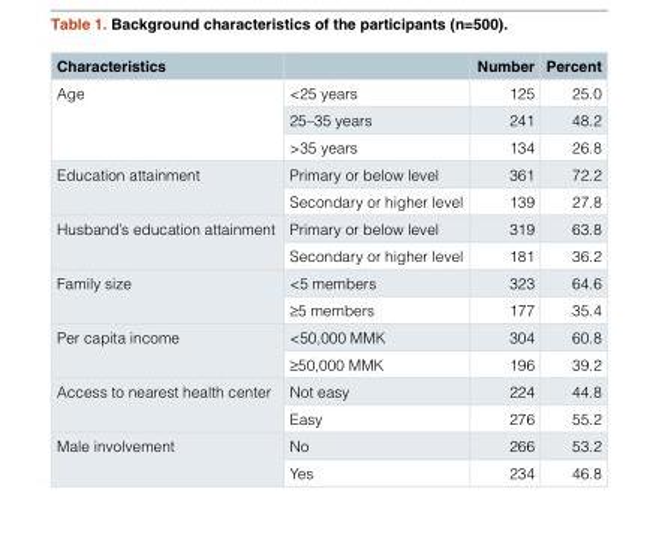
<table><thead><tr><td>Characteristics</td><td></td><td>Number</td><td>Percent</td></tr></thead><tbody><tr><td rowspan="3">Age</td><td>&lt;25 years</td><td>125</td><td>25.0</td></tr><tr><td>25–35 years</td><td>241</td><td>48.2</td></tr><tr><td>&gt;35 years</td><td>134</td><td>26.8</td></tr><tr><td rowspan="2">Education attainment</td><td>Primary or below level</td><td>361</td><td>72.2</td></tr><tr><td>Secondary or higher level</td><td>139</td><td>27.8</td></tr><tr><td rowspan="2">Husband’s education attainment</td><td>Primary or below level</td><td>319</td><td>63.8</td></tr><tr><td>Secondary or higher level</td><td>181</td><td>36.2</td></tr><tr><td rowspan="2">Family size</td><td>&lt;5 members</td><td>323</td><td>64.6</td></tr><tr><td>≥5 members</td><td>177</td><td>35.4</td></tr><tr><td rowspan="2">Per capita income</td><td>&lt;50,000 MMK</td><td>304</td><td>60.8</td></tr><tr><td>≥50,000 MMK</td><td>196</td><td>39.2</td></tr><tr><td rowspan="2">Access to nearest health center</td><td>Not easy</td><td>224</td><td>44.8</td></tr><tr><td>Easy</td><td>276</td><td>55.2</td></tr><tr><td rowspan="2">Male involvement</td><td>No</td><td>266</td><td>53.2</td></tr><tr><td>Yes</td><td>234</td><td>46.8</td></tr></tbody></table>